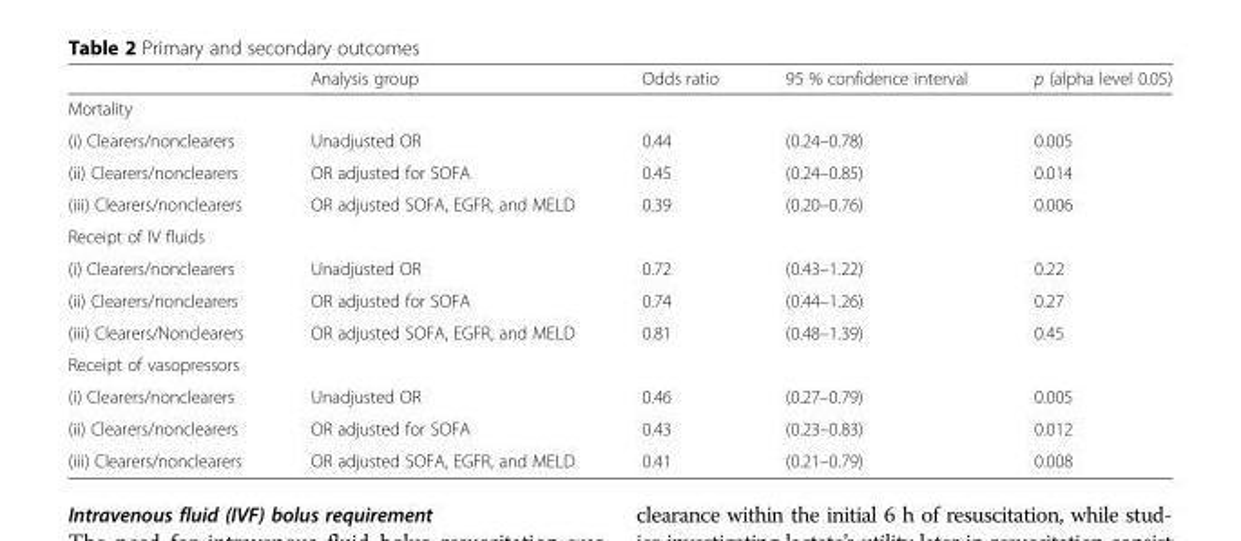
<table><thead><tr><td></td><td>Analysis group</td><td>Odds ratio</td><td>95 % confidence interval</td><td>p (alpha level 0.05)</td></tr></thead><tbody><tr><td colspan="5">Mortality</td></tr><tr><td>(i) Clearers/nonclearers</td><td>Unadjusted OR</td><td>0.44</td><td>(0.24–0.78)</td><td>0.005</td></tr><tr><td>(ii) Clearers/nonclearers</td><td>OR adjusted for SOFA</td><td>0.45</td><td>(0.24–0.85)</td><td>0.014</td></tr><tr><td>(iii) Clearers/nonclearers</td><td>OR adjusted SOFA, EGFR, and MELD</td><td>0.39</td><td>(0.20–0.76)</td><td>0.006</td></tr><tr><td colspan="5">Receipt of IV fluids</td></tr><tr><td>(i) Clearers/nonclearers</td><td>Unadjusted OR</td><td>0.72</td><td>(0.43–1.22)</td><td>0.22</td></tr><tr><td>(ii) Clearers/nonclearers</td><td>OR adjusted for SOFA</td><td>0.74</td><td>(0.44–1.26)</td><td>0.27</td></tr><tr><td>(iii) Clearers/Nonclearers</td><td>OR adjusted SOFA, EGFR, and MELD</td><td>0.81</td><td>(0.48–1.39)</td><td>0.45</td></tr><tr><td colspan="5">Receipt of vasopressors</td></tr><tr><td>(i) Clearers/nonclearers</td><td>Unadjusted OR</td><td>0.46</td><td>(0.27–0.79)</td><td>0.005</td></tr><tr><td>(ii) Clearers/nonclearers</td><td>OR adjusted for SOFA</td><td>0.43</td><td>(0.23–0.83)</td><td>0.012</td></tr><tr><td>(iii) Clearers/nonclearers</td><td>OR adjusted SOFA, EGFR, and MELD</td><td>0.41</td><td>(0.21–0.79)</td><td>0.008</td></tr></tbody></table>